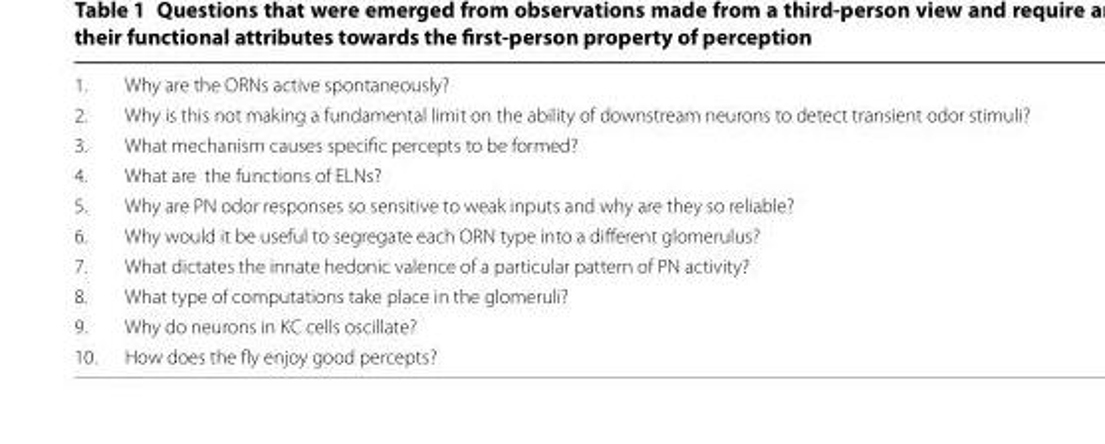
<table><tbody><tr><td>1.</td><td>Why are the ORNs active spontaneously?</td></tr><tr><td>2.</td><td>Why is this not making a fundamental limit on the ability of downstream neurons to detect transient odor stimuli?</td></tr><tr><td>3.</td><td>What mechanism causes specific percepts to be formed?</td></tr><tr><td>4.</td><td>What are the functions of ELNs?</td></tr><tr><td>5.</td><td>Why are PN odor responses so sensitive to weak inputs and why are they so reliable?</td></tr><tr><td>6.</td><td>Why would it be useful to segregate each ORN type into a different glomerulus?</td></tr><tr><td>7.</td><td>What dictates the innate hedonic valence of a particular pattern of PN activity?</td></tr><tr><td>8.</td><td>What type of computations take place in the glomeruli?</td></tr><tr><td>9.</td><td>Why do neurons in KC cells oscillate?</td></tr><tr><td>10.</td><td>How does the fly enjoy good percepts?</td></tr></tbody></table>